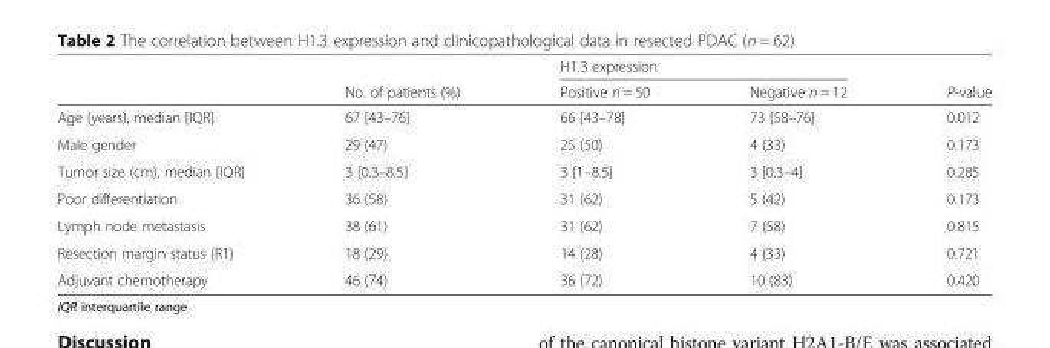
<table><thead><tr><td rowspan="2"></td><td rowspan="2">No. of patients (%)</td><td colspan="2">H1.3 expression</td><td rowspan="2">P-value</td></tr><tr><td>Positive n = 50</td><td>Negative n = 12</td></tr></thead><tbody><tr><td>Age (years), median [IQR]</td><td>67 [43–76]</td><td>66 [43–78]</td><td>73 [58–76]</td><td>0.012</td></tr><tr><td>Male gender</td><td>29 (47)</td><td>25 (50)</td><td>4 (33)</td><td>0.173</td></tr><tr><td>Tumor size (cm), median [IQR]</td><td>3 [0.3–8.5]</td><td>3 [1–8.5]</td><td>3 [0.3–4]</td><td>0.285</td></tr><tr><td>Poor differentiation</td><td>36 (58)</td><td>31 (62)</td><td>5 (42)</td><td>0.173</td></tr><tr><td>Lymph node metastasis</td><td>38 (61)</td><td>31 (62)</td><td>7 (58)</td><td>0.815</td></tr><tr><td>Resection margin status (R1)</td><td>18 (29)</td><td>14 (28)</td><td>4 (33)</td><td>0.721</td></tr><tr><td>Adjuvant chemotherapy</td><td>46 (74)</td><td>36 (72)</td><td>10 (83)</td><td>0.420</td></tr></tbody></table>